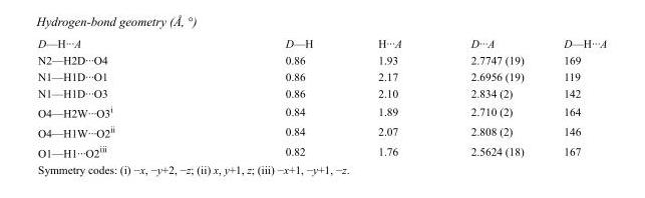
<table><tbody><tr><td>D—H···A</td><td>D—H</td><td>H···A</td><td>D···A</td><td>D—H···A</td></tr><tr><td>N2—H2D···O4</td><td>0.86</td><td>1.93</td><td>2.7747 (19)</td><td>169</td></tr><tr><td>N1—H1D···O1</td><td>0.86</td><td>2.17</td><td>2.6956 (19)</td><td>119</td></tr><tr><td>N1—H1D···O3</td><td>0.86</td><td>2.10</td><td>2.834 (2)</td><td>142</td></tr><tr><td>O4—H2W···O3<sup>i</sup></td><td>0.84</td><td>1.89</td><td>2.710 (2)</td><td>164</td></tr><tr><td>O4—H1W···O2<sup>ii</sup></td><td>0.84</td><td>2.07</td><td>2.808 (2)</td><td>146</td></tr><tr><td>O1—H1···O2<sup>iii</sup></td><td>0.82</td><td>1.76</td><td>2.5624 (18)</td><td>167</td></tr></tbody></table>